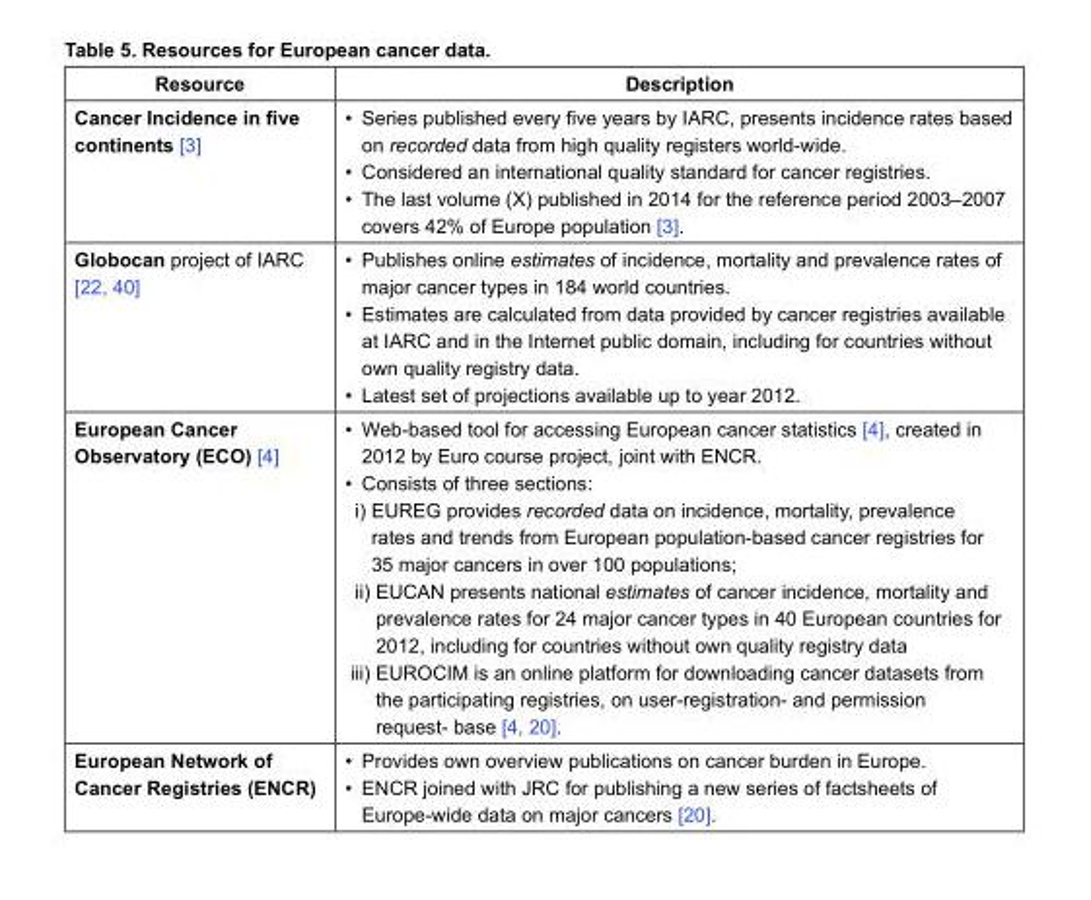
<table><thead><tr><td>Resource</td><td>Description</td></tr></thead><tbody><tr><td>Cancer Incidence in five continents [3]</td><td>• Series published every five years by IARC, presents incidence rates based on recorded data from high quality registers world-wide. • Considered an international quality standard for cancer registries. • The last volume (X) published in 2014 for the reference period 2003–2007 covers 42% of Europe population [3].</td></tr><tr><td>Globocan project of IARC [22, 40]</td><td>• Publishes online estimates of incidence, mortality and prevalence rates of major cancer types in 184 world countries. • Estimates are calculated from data provided by cancer registries available at IARC and in the Internet public domain, including for countries without own quality registry data. • Latest set of projections available up to year 2012.</td></tr><tr><td>European Cancer Observatory (ECO) [4]</td><td>• Web-based tool for accessing European cancer statistics [4], created in 2012 by Euro course project, joint with ENCR. • Consists of three sections: i) EUREG provides recorded data on incidence, mortality, prevalence rates and trends from European population-based cancer registries for 35 major cancers in over 100 populations; ii) EUCAN presents national estimates of cancer incidence, mortality and prevalence rates for 24 major cancer types in 40 European countries for 2012, including for countries without own quality registry data iii) EUROCIM is an online platform for downloading cancer datasets from the participating registries, on user-registration- and permission request- base [4, 20].</td></tr><tr><td>European Network of Cancer Registries (ENCR)</td><td>• Provides own overview publications on cancer burden in Europe. • ENCR joined with JRC for publishing a new series of factsheets of Europe-wide data on major cancers [20].</td></tr></tbody></table>